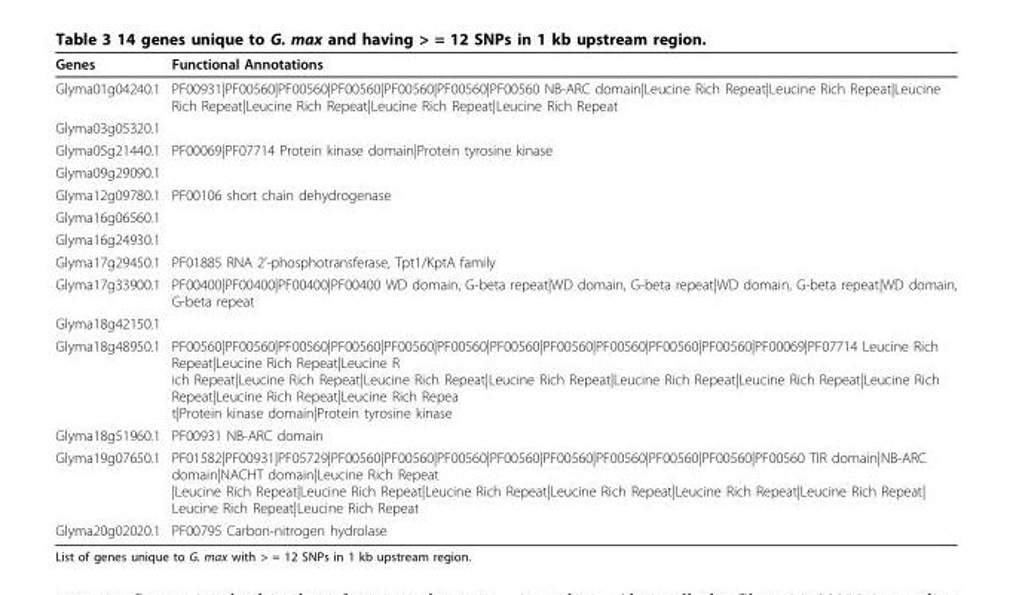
<table><thead><tr><td>Genes</td><td>Functional Annotations</td></tr></thead><tbody><tr><td>Glyma01g04240.1</td><td>PF00931|PF00560|PF00560|PF00560|PF00560|PF00560|PF00560 NB-ARC domain|Leucine Rich Repeat|Leucine Rich Repeat|Leucine Rich Repeat|Leucine Rich Repeat|Leucine Rich Repeat|Leucine Rich Repeat</td></tr><tr><td colspan="2">Glyma03g05320.1</td></tr><tr><td>Glyma05g21440.1</td><td>PF00069|PF07714 Protein kinase domain|Protein tyrosine kinase</td></tr><tr><td colspan="2">Glyma09g29090.1</td></tr><tr><td>Glyma12g09780.1</td><td>PF00106 short chain dehydrogenase</td></tr><tr><td colspan="2">Glyma16g06560.1</td></tr><tr><td colspan="2">Glyma16g24930.1</td></tr><tr><td>Glyma17g29450.1</td><td>PF01885 RNA 2’-phosphotransferase, Tpt1/KptA family</td></tr><tr><td>Glyma17g33900.1</td><td>PF00400|PF00400|PF00400|PF00400 WD domain, G-beta repeat|WD domain, G-beta repeat|WD domain, G-beta repeat|WD domain, G-beta repeat</td></tr><tr><td colspan="2">Glyma18g42150.1</td></tr><tr><td>Glyma18g48950.1</td><td>PF00560|PF00560|PF00560|PF00560|PF00560|PF00560|PF00560|PF00560|PF00560|PF00560|PF00560|PF00069|PF07714 Leucine Rich Repeat|Leucine Rich Repeat|Leucine R ich Repeat|Leucine Rich Repeat|Leucine Rich Repeat|Leucine Rich Repeat|Leucine Rich Repeat|Leucine Rich Repeat|Leucine Rich Repeat|Leucine Rich Repeat|Leucine Rich Repea t|Protein kinase domain|Protein tyrosine kinase</td></tr><tr><td>Glyma18g51960.1</td><td>PF00931 NB-ARC domain</td></tr><tr><td>Glyma19g07650.1</td><td>PF01582|PF00931|PF05729|PF00560|PF00560|PF00560|PF00560|PF00560|PF00560|PF00560|PF00560|PF00560 TIR domain|NB-ARC domain|NACHT domain|Leucine Rich Repeat |Leucine Rich Repeat|Leucine Rich Repeat|Leucine Rich Repeat|Leucine Rich Repeat|Leucine Rich Repeat|Leucine Rich Repeat| Leucine Rich Repeat|Leucine Rich Repeat</td></tr><tr><td>Glyma20g02020.1</td><td>PF00795 Carbon-nitrogen hydrolase</td></tr></tbody></table>